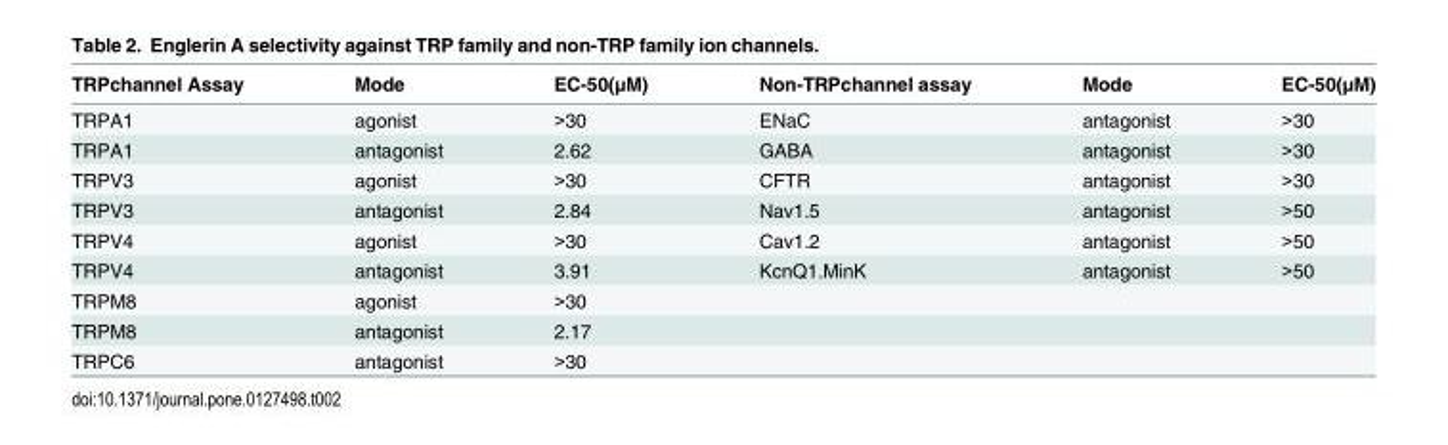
<table><thead><tr><td>TRPchannel Assay</td><td>Mode</td><td>EC-50(μM)</td><td>Non-TRPchannel assay</td><td>Mode</td><td>EC-50(μM)</td></tr></thead><tbody><tr><td>TRPA1</td><td>agonist</td><td>&gt;30</td><td>ENaC</td><td>antagonist</td><td>&gt;30</td></tr><tr><td>TRPA1</td><td>antagonist</td><td>2.62</td><td>GABA</td><td>antagonist</td><td>&gt;30</td></tr><tr><td>TRPV3</td><td>agonist</td><td>&gt;30</td><td>CFTR</td><td>antagonist</td><td>&gt;30</td></tr><tr><td>TRPV3</td><td>antagonist</td><td>2.84</td><td>Nav1.5</td><td>antagonist</td><td>&gt;50</td></tr><tr><td>TRPV4</td><td>agonist</td><td>&gt;30</td><td>Cav1.2</td><td>antagonist</td><td>&gt;50</td></tr><tr><td>TRPV4</td><td>antagonist</td><td>3.91</td><td>KcnQ1.MinK</td><td>antagonist</td><td>&gt;50</td></tr><tr><td>TRPM8</td><td>agonist</td><td>&gt;30</td><td></td><td></td><td></td></tr><tr><td>TRPM8</td><td>antagonist</td><td>2.17</td><td></td><td></td><td></td></tr><tr><td>TRPC6</td><td>antagonist</td><td>&gt;30</td><td></td><td></td><td></td></tr></tbody></table>